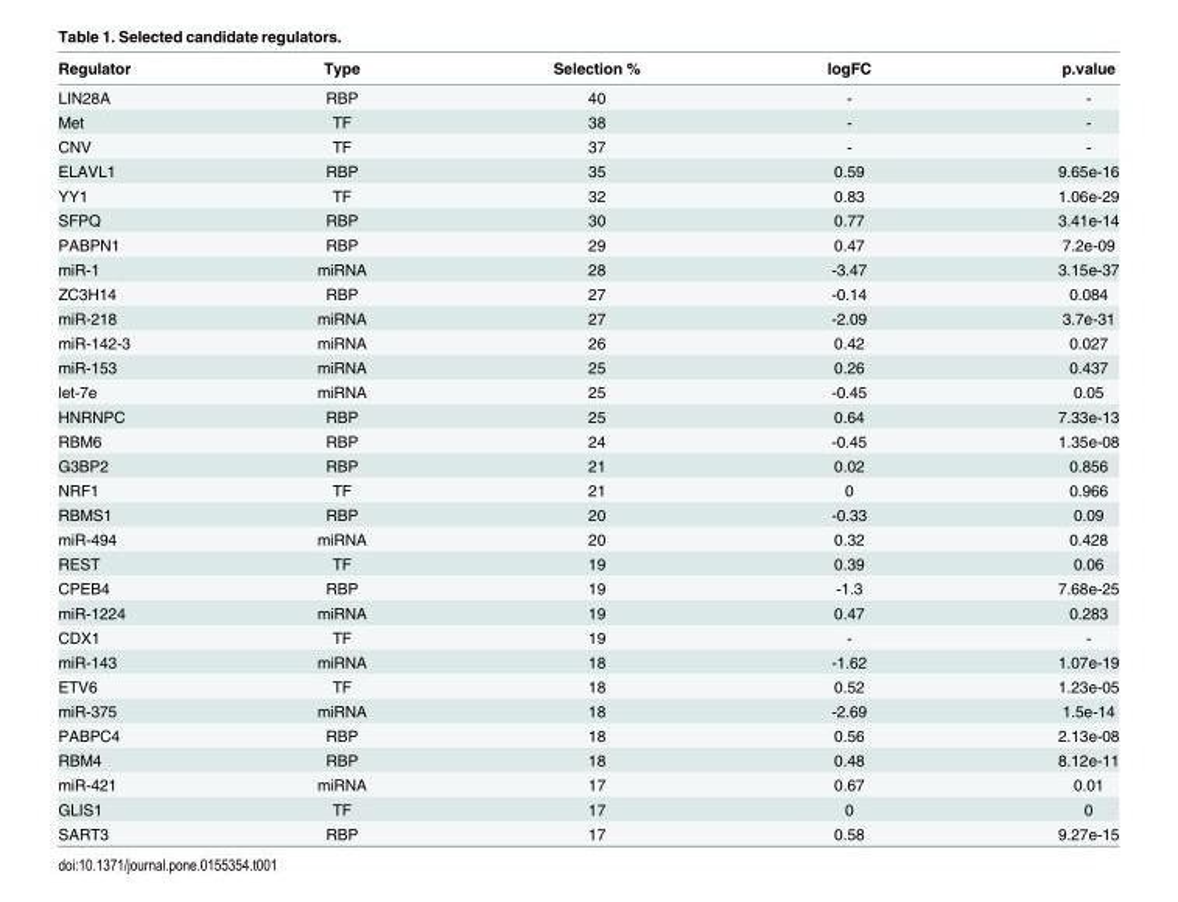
<table><thead><tr><td>Regulator</td><td>Type</td><td>Selection %</td><td>logFC</td><td>p.value</td></tr></thead><tbody><tr><td>LIN28A</td><td>RBP</td><td>40</td><td>-</td><td>-</td></tr><tr><td>Met</td><td>TF</td><td>38</td><td>-</td><td>-</td></tr><tr><td>CNV</td><td>TF</td><td>37</td><td>-</td><td>-</td></tr><tr><td>ELAVL1</td><td>RBP</td><td>35</td><td>0.59</td><td>9.65e-16</td></tr><tr><td>YY1</td><td>TF</td><td>32</td><td>0.83</td><td>1.06e-29</td></tr><tr><td>SFPQ</td><td>RBP</td><td>30</td><td>0.77</td><td>3.41e-14</td></tr><tr><td>PABPN1</td><td>RBP</td><td>29</td><td>0.47</td><td>7.2e-09</td></tr><tr><td>miR-1</td><td>miRNA</td><td>28</td><td>-3.47</td><td>3.15e-37</td></tr><tr><td>ZC3H14</td><td>RBP</td><td>27</td><td>-0.14</td><td>0.084</td></tr><tr><td>miR-218</td><td>miRNA</td><td>27</td><td>-2.09</td><td>3.7e-31</td></tr><tr><td>miR-142-3</td><td>miRNA</td><td>26</td><td>0.42</td><td>0.027</td></tr><tr><td>miR-153</td><td>miRNA</td><td>25</td><td>0.26</td><td>0.437</td></tr><tr><td>let-7e</td><td>miRNA</td><td>25</td><td>-0.45</td><td>0.05</td></tr><tr><td>HNRNPC</td><td>RBP</td><td>25</td><td>0.64</td><td>7.33e-13</td></tr><tr><td>RBM6</td><td>RBP</td><td>24</td><td>-0.45</td><td>1.35e-08</td></tr><tr><td>G3BP2</td><td>RBP</td><td>21</td><td>0.02</td><td>0.856</td></tr><tr><td>NRF1</td><td>TF</td><td>21</td><td>0</td><td>0.966</td></tr><tr><td>RBMS1</td><td>RBP</td><td>20</td><td>-0.33</td><td>0.09</td></tr><tr><td>miR-494</td><td>miRNA</td><td>20</td><td>0.32</td><td>0.428</td></tr><tr><td>REST</td><td>TF</td><td>19</td><td>0.39</td><td>0.06</td></tr><tr><td>CPEB4</td><td>RBP</td><td>19</td><td>-1.3</td><td>7.68e-25</td></tr><tr><td>miR-1224</td><td>miRNA</td><td>19</td><td>0.47</td><td>0.283</td></tr><tr><td>CDX1</td><td>TF</td><td>19</td><td>-</td><td>-</td></tr><tr><td>miR-143</td><td>miRNA</td><td>18</td><td>-1.62</td><td>1.07e-19</td></tr><tr><td>ETV6</td><td>TF</td><td>18</td><td>0.52</td><td>1.23e-05</td></tr><tr><td>miR-375</td><td>miRNA</td><td>18</td><td>-2.69</td><td>1.5e-14</td></tr><tr><td>PABPC4</td><td>RBP</td><td>18</td><td>0.56</td><td>2.13e-08</td></tr><tr><td>RBM4</td><td>RBP</td><td>18</td><td>0.48</td><td>8.12e-11</td></tr><tr><td>miR-421</td><td>miRNA</td><td>17</td><td>0.67</td><td>0.01</td></tr><tr><td>GLIS1</td><td>TF</td><td>17</td><td>0</td><td>0</td></tr><tr><td>SART3</td><td>RBP</td><td>17</td><td>0.58</td><td>9.27e-15</td></tr></tbody></table>